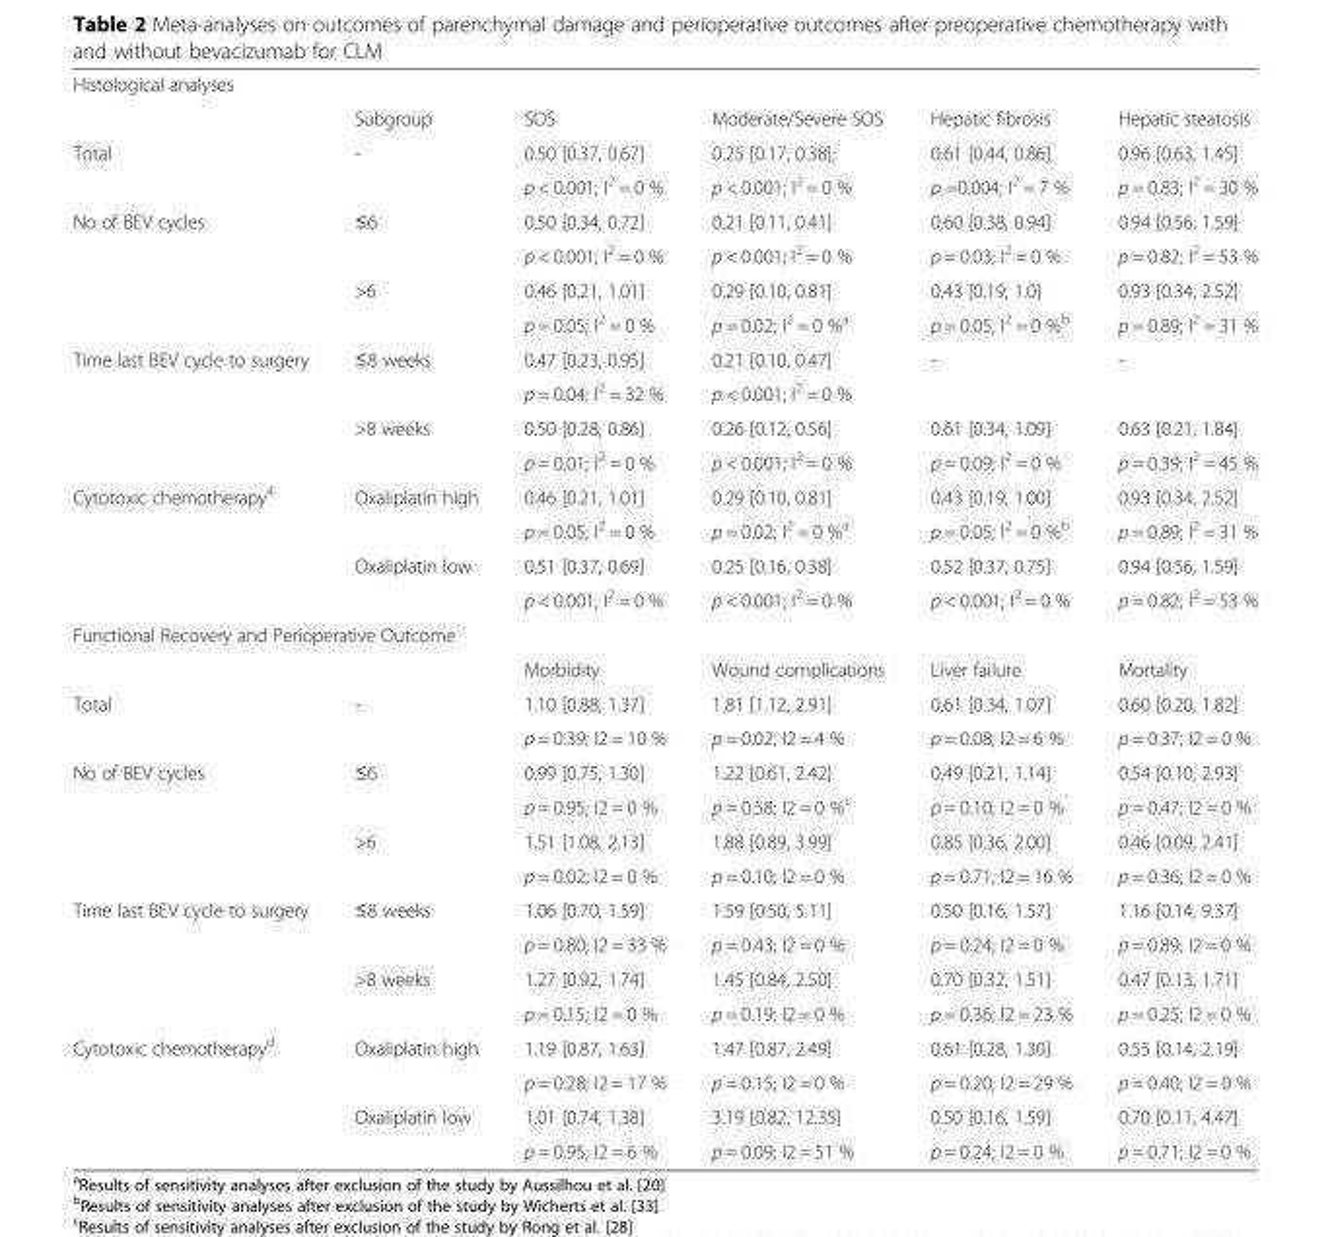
<table><tbody><tr><td colspan="6">Histological analyses</td></tr><tr><td></td><td>Subgroup</td><td>SOS</td><td>Moderate/Severe SOS</td><td>Hepatic fibrosis</td><td>Hepatic steatosis</td></tr><tr><td rowspan="2">Total</td><td rowspan="2">-</td><td>0.50 [0.37, 0.67]</td><td>0.25 [0.17, 0.38];</td><td>0.61 [0.44, 0.86]</td><td>0.96 [0.63, 1.45]</td></tr><tr><td>p &lt; 0.001; I<sup>2</sup> = 0 %</td><td>p &lt; 0.001; I<sup>2</sup> = 0 %</td><td>p =0.004; I<sup>2</sup> = 7 %</td><td>p = 0.83; I<sup>2</sup> = 30 %</td></tr><tr><td rowspan="4">No of BEV cycles</td><td rowspan="2">≤6</td><td>0.50 [0.34, 0.72]</td><td>0.21 [0.11, 0.41]</td><td>0.60 [0.38, 0.94]</td><td>0.94 [0.56, 1.59]</td></tr><tr><td>p &lt; 0.001; I<sup>2</sup> = 0 %</td><td>p &lt; 0.001; I<sup>2</sup> = 0 %</td><td>p = 0.03; I<sup>2</sup> = 0 %</td><td>p = 0.82; I<sup>2</sup> = 53 %</td></tr><tr><td rowspan="2">&gt;6</td><td>0.46 [0.21, 1.01]</td><td>0.29 [0.10, 0.81]</td><td>0.43 [0.19, 1.0]</td><td>0.93 [0.34, 2.52]</td></tr><tr><td>p = 0.05; I<sup>2</sup> = 0 %</td><td>p = 0.02; I<sup>2</sup> = 0 %<sup>a</sup></td><td>p = 0.05; I<sup>2</sup> = 0 %<sup>b</sup></td><td>p = 0.89; I<sup>2</sup> = 31 %</td></tr><tr><td rowspan="4">Time last BEV cycle to surgery</td><td rowspan="2">≤8 weeks</td><td>0.47 [0.23, 0.95]</td><td>0.21 [0.10, 0.47]</td><td>-</td><td>-</td></tr><tr><td>p = 0.04; I<sup>2</sup> = 32 %</td><td>p &lt; 0.001; I<sup>2</sup> = 0 %</td><td></td><td></td></tr><tr><td rowspan="2">&gt;8 weeks</td><td>0.50 [0.28, 0.86]</td><td>0.26 [0.12, 0.56]</td><td>0.61 [0.34, 1.09]</td><td>0.63 [0.21, 1.84]</td></tr><tr><td>p = 0.01; I<sup>2</sup> = 0 %</td><td>p &lt; 0.001; I<sup>2</sup> = 0 %</td><td>p = 0.09; I<sup>2</sup> = 0 %</td><td>p = 0.39; I<sup>2</sup> = 45 %</td></tr><tr><td rowspan="4">Cytotoxic chemotherapy<sup>4</sup></td><td rowspan="2">Oxaliplatin high</td><td>0.46 [0.21, 1.01]</td><td>0.29 [0.10, 0.81]</td><td>0.43 [0.19, 1.00]</td><td>0.93 [0.34, 2.52]</td></tr><tr><td>p = 0.05; I<sup>2</sup> = 0 %</td><td>p = 0.02; I<sup>2</sup> = 0 %<sup>a</sup></td><td>p = 0.05; I<sup>2</sup> = 0 %<sup>b</sup></td><td>p = 0.89; I<sup>2</sup> = 31 %</td></tr><tr><td rowspan="2">Oxaliplatin low</td><td>0.51 [0.37, 0.69]</td><td>0.25 [0.16, 0.38]</td><td>0.52 [0.37, 0.75]</td><td>0.94 [0.56, 1.59]</td></tr><tr><td>p &lt; 0.001; I<sup>2</sup> = 0 %</td><td>p &lt; 0.001; I<sup>2</sup> = 0 %</td><td>p &lt; 0.001; I<sup>2</sup> = 0 %</td><td>p = 0.82; I<sup>2</sup> = 53 %</td></tr><tr><td colspan="6">Functional Recovery and Perioperative Outcome</td></tr><tr><td></td><td></td><td>Morbidity</td><td>Wound complications</td><td>Liver failure</td><td>Mortality</td></tr><tr><td rowspan="2">Total</td><td rowspan="2">-</td><td>1.10 [0.88, 1.37]</td><td>1.81 [1.12, 2.91]</td><td>0.61 [0.34, 1.07]</td><td>0.60 [0.20, 1.82]</td></tr><tr><td>p = 0.39; I2 = 10 %</td><td>p = 0.02; I2 = 4 %</td><td>p = 0.08; I2 = 6 %</td><td>p = 0.37; I2 = 0 %</td></tr><tr><td rowspan="4">No of BEV cycles</td><td rowspan="2">≤6</td><td>0.99 [0.75, 1.30]</td><td>1.22 [0.61, 2.42]</td><td>0.49 [0.21, 1.14]</td><td>0.54 [0.10, 2.93]</td></tr><tr><td>p = 0.95; I2 = 0 %</td><td>p = 0.58; I2 = 0 %<sup>c</sup></td><td>p = 0.10; I2 = 0 %</td><td>p = 0.47; I2 = 0 %</td></tr><tr><td rowspan="2">&gt;6</td><td>1.51 [1.08, 2.13]</td><td>1.88 [0.89, 3.99]</td><td>0.85 [0.36, 2.00]</td><td>0.46 [0.09, 2.41]</td></tr><tr><td>p = 0.02; I2 = 0 %</td><td>p = 0.10; I2 = 0 %</td><td>p = 0.71; I2 = 16 %</td><td>p = 0.36; I2 = 0 %</td></tr><tr><td rowspan="4">Time last BEV cycle to surgery</td><td rowspan="2">≤8 weeks</td><td>1.06 [0.70, 1.59]</td><td>1.59 [0.50, 5.11]</td><td>0.50 [0.16, 1.57]</td><td>1.16 [0.14, 9.37]</td></tr><tr><td>p = 0.80; I2 = 33 %</td><td>p = 0.43; I2 = 0 %</td><td>p = 0.24; I2 = 0 %</td><td>p = 0.89; I2 = 0 %</td></tr><tr><td rowspan="2">&gt;8 weeks</td><td>1.27 [0.92, 1.74]</td><td>1.45 [0.84, 2.50]</td><td>0.70 [0.32, 1.51]</td><td>0.47 [0.13, 1.71]</td></tr><tr><td>p = 0.15; I2 = 0 %</td><td>p = 0.19; I2 = 0 %</td><td>p = 0.36; I2 = 23 %</td><td>p = 0.25; I2 = 0 %</td></tr><tr><td rowspan="4">Cytotoxic chemotherapy<sup>d</sup></td><td rowspan="2">Oxaliplatin high</td><td>1.19 [0.87, 1.63]</td><td>1.47 [0.87, 2.49]</td><td>0.61 [0.28, 1.30]</td><td>0.55 [0.14, 2.19]</td></tr><tr><td>p = 0.28; I2 = 17 %</td><td>p = 0.15; I2 = 0 %</td><td>p = 0.20; I2 = 29 %</td><td>p = 0.40; I2 = 0 %</td></tr><tr><td rowspan="2">Oxaliplatin low</td><td>1.01 [0.74, 1.38]</td><td>3.19 [0.82, 12.35]</td><td>0.50 [0.16, 1.59]</td><td>0.70 [0.11, 4.47]</td></tr><tr><td>p = 0.95; I2 = 6 %</td><td>p = 0.09; I2 = 51 %</td><td>p = 0.24; I2 = 0 %</td><td>p = 0.71; I2 = 0 %</td></tr></tbody></table>